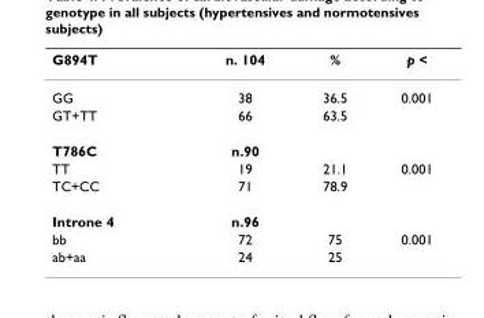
<table><thead><tr><td>G894T</td><td>n. 104</td><td>%</td><td>p &lt;</td></tr></thead><tbody><tr><td>GG</td><td>38</td><td>36.5</td><td>0.001</td></tr><tr><td>GT+TT</td><td>66</td><td>63.5</td><td></td></tr><tr><td>T786C</td><td>n.90</td><td></td><td></td></tr><tr><td>TT</td><td>19</td><td>21.1</td><td>0.001</td></tr><tr><td>TC+CC</td><td>71</td><td>78.9</td><td></td></tr><tr><td>Introne 4</td><td>n.96</td><td></td><td></td></tr><tr><td>bb</td><td>72</td><td>75</td><td>0.001</td></tr><tr><td>ab+aa</td><td>24</td><td>25</td><td></td></tr></tbody></table>